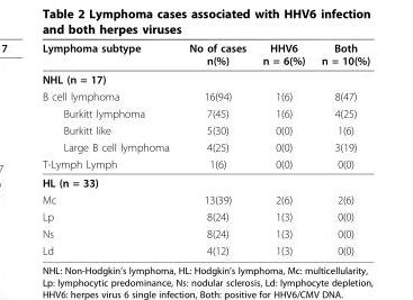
<table><thead><tr><td>Lymphoma subtype</td><td>No of cases n(%)</td><td>HHV6 n = 6(%)</td><td>Both n = 10(%)</td></tr></thead><tbody><tr><td colspan="4">NHL (n = 17)</td></tr><tr><td>B cell lymphoma</td><td>16(94)</td><td>1(6)</td><td>8(47)</td></tr><tr><td>Burkitt lymphoma</td><td>7(45)</td><td>1(6)</td><td>4(25)</td></tr><tr><td>Burkitt like</td><td>5(30)</td><td>0(0)</td><td>1(6)</td></tr><tr><td>Large B cell lymphoma</td><td>4(25)</td><td>0(0)</td><td>3(19)</td></tr><tr><td>T-Lymph Lymph</td><td>1(6)</td><td>0(0)</td><td>0(0)</td></tr><tr><td colspan="4">HL (n = 33)</td></tr><tr><td>Mc</td><td>13(39)</td><td>2(6)</td><td>2(6)</td></tr><tr><td>Lp</td><td>8(24)</td><td>1(3)</td><td>0(0)</td></tr><tr><td>Ns</td><td>8(24)</td><td>1(3)</td><td>0(0)</td></tr><tr><td>Ld</td><td>4(12)</td><td>1(3)</td><td>0(0)</td></tr></tbody></table>